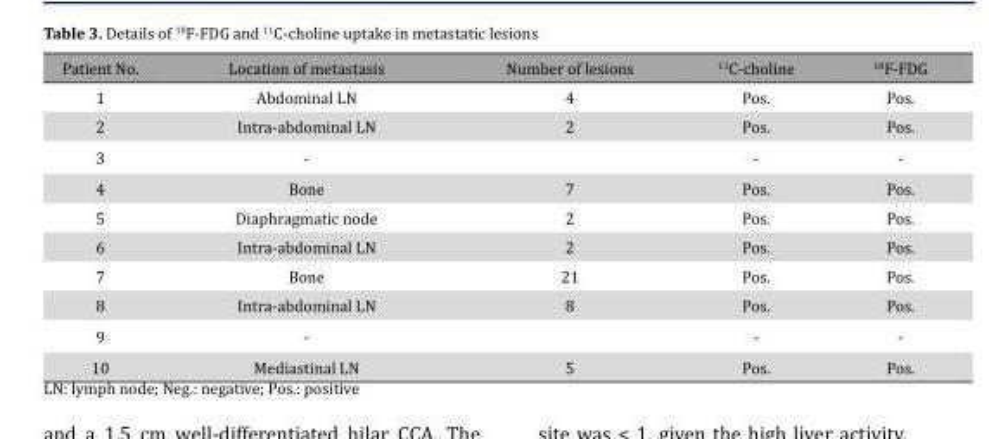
<table><thead><tr><td>Patient No.</td><td>Location of metastasis</td><td>Number of lesions</td><td><sup>11</sup>C-choline</td><td><sup>18</sup>F-FDG</td></tr></thead><tbody><tr><td>1</td><td>Abdominal LN</td><td>4</td><td>Pos.</td><td>Pos.</td></tr><tr><td>2</td><td>Intra-abdominal LN</td><td>2</td><td>Pos.</td><td>Pos.</td></tr><tr><td>3</td><td>-</td><td></td><td>-</td><td>-</td></tr><tr><td>4</td><td>Bone</td><td>7</td><td>Pos.</td><td>Pos.</td></tr><tr><td>5</td><td>Diaphragmatic node</td><td>2</td><td>Pos.</td><td>Pos.</td></tr><tr><td>6</td><td>Intra-abdominal LN</td><td>2</td><td>Pos.</td><td>Pos.</td></tr><tr><td>7</td><td>Bone</td><td>21</td><td>Pos.</td><td>Pos.</td></tr><tr><td>8</td><td>Intra-abdominal LN</td><td>8</td><td>Pos.</td><td>Pos.</td></tr><tr><td>9</td><td>-</td><td></td><td>-</td><td>-</td></tr><tr><td>10</td><td>Mediastinal LN</td><td>5</td><td>Pos.</td><td>Pos.</td></tr></tbody></table>